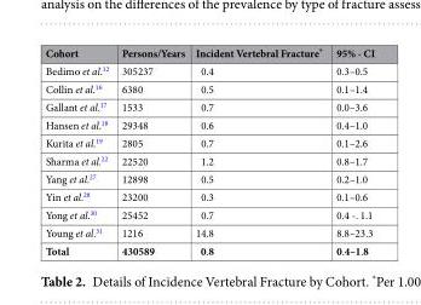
<table><thead><tr><td>Cohort</td><td>Persons/Years</td><td>Incident Vertebral Fracture*</td><td>95% - CI</td></tr></thead><tbody><tr><td>Bedimo et al.<sup>12</sup></td><td>305237</td><td>0.4</td><td>0.3–0.5</td></tr><tr><td>Collin et al.<sup>16</sup></td><td>6380</td><td>0.5</td><td>0.1–1.4</td></tr><tr><td>Gallant et al.<sup>17</sup></td><td>1533</td><td>0.7</td><td>0.0–3.6</td></tr><tr><td>Hansen et al.<sup>18</sup></td><td>29348</td><td>0.6</td><td>0.4–1.0</td></tr><tr><td>Kurita et al.<sup>19</sup></td><td>2805</td><td>0.7</td><td>0.1–2.6</td></tr><tr><td>Sharma et al.<sup>22</sup></td><td>22520</td><td>1.2</td><td>0.8–1.7</td></tr><tr><td>Yang et al.<sup>27</sup></td><td>12898</td><td>0.5</td><td>0.2–1.0</td></tr><tr><td>Yin et al.<sup>28</sup></td><td>23200</td><td>0.3</td><td>0.1–0.6</td></tr><tr><td>Yong et al.<sup>30</sup></td><td>25452</td><td>0.7</td><td>0.4 -. 1.1</td></tr><tr><td>Young et al.<sup>31</sup></td><td>1216</td><td>14.8</td><td>8.8–23.3</td></tr><tr><td>Total</td><td>430589</td><td>0.8</td><td>0.4–1.8</td></tr></tbody></table>